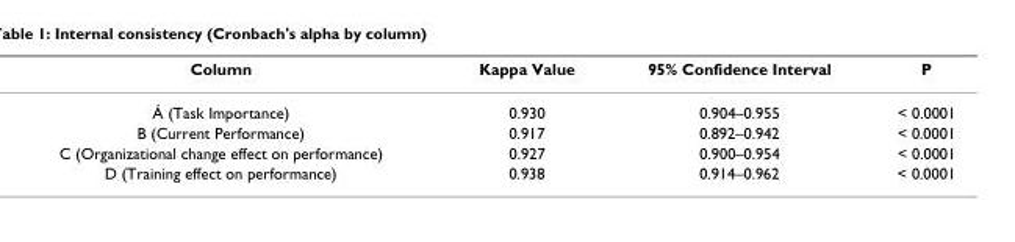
<table><thead><tr><td>Column</td><td>Kappa Value</td><td>95% Confidence Interval</td><td>P</td></tr></thead><tbody><tr><td>Á (Task Importance)</td><td>0.930</td><td>0.904–0.955</td><td>&lt; 0.0001</td></tr><tr><td>B (Current Performance)</td><td>0.917</td><td>0.892–0.942</td><td>&lt; 0.0001</td></tr><tr><td>C (Organizational change effect on performance)</td><td>0.927</td><td>0.900–0.954</td><td>&lt; 0.0001</td></tr><tr><td>D (Training effect on performance)</td><td>0.938</td><td>0.914–0.962</td><td>&lt; 0.0001</td></tr></tbody></table>